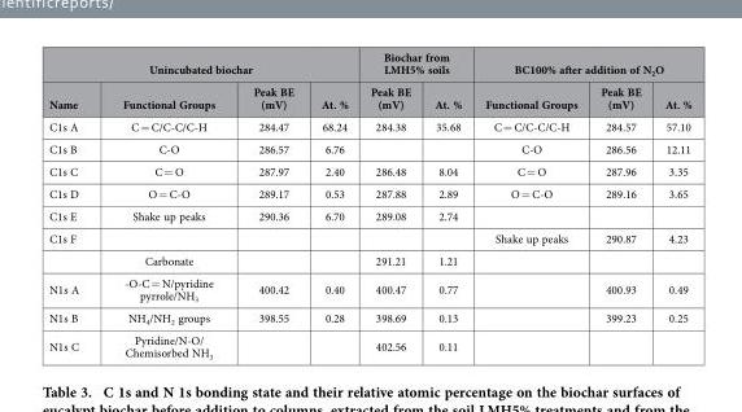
<table><thead><tr><td colspan="4">Unincubated biochar</td><td colspan="2">Biochar from LMH5% soils</td><td colspan="3">BC100% after addition of N<sub>2</sub>O</td></tr><tr><td>Name</td><td>Functional Groups</td><td>Peak BE (mV)</td><td>At. %</td><td>Peak BE (mV)</td><td>At. %</td><td>Functional Groups</td><td>Peak BE (mV)</td><td>At. %</td></tr></thead><tbody><tr><td>C1s A</td><td>C = C/C-C/C-H</td><td>284.47</td><td>68.24</td><td>284.38</td><td>35.68</td><td>C = C/C-C/C-H</td><td>284.57</td><td>57.10</td></tr><tr><td>C1s B</td><td>C-O</td><td>286.57</td><td>6.76</td><td></td><td></td><td>C-O</td><td>286.56</td><td>12.11</td></tr><tr><td>C1s C</td><td>C = O</td><td>287.97</td><td>2.40</td><td>286.48</td><td>8.04</td><td>C = O</td><td>287.96</td><td>3.35</td></tr><tr><td>C1s D</td><td>O = C-O</td><td>289.17</td><td>0.53</td><td>287.88</td><td>2.89</td><td>O = C-O</td><td>289.16</td><td>3.65</td></tr><tr><td>C1s E</td><td>Shake up peaks</td><td>290.36</td><td>6.70</td><td>289.08</td><td>2.74</td><td></td><td></td><td></td></tr><tr><td rowspan="2">C1s F</td><td></td><td></td><td></td><td></td><td></td><td>Shake up peaks</td><td>290.87</td><td>4.23</td></tr><tr><td>Carbonate</td><td></td><td></td><td>291.21</td><td>1.21</td><td></td><td></td><td></td></tr><tr><td>N1s A</td><td>-O-C = N/pyridine pyrrole/NH<sub>3</sub></td><td>400.42</td><td>0.40</td><td>400.47</td><td>0.77</td><td></td><td>400.93</td><td>0.49</td></tr><tr><td>N1s B</td><td>NH<sub>4</sub>/NH<sub>2</sub> groups</td><td>398.55</td><td>0.28</td><td>398.69</td><td>0.13</td><td></td><td>399.23</td><td>0.25</td></tr><tr><td>N1s C</td><td>Pyridine/N-O/ Chemisorbed NH<sub>3</sub></td><td></td><td></td><td>402.56</td><td>0.11</td><td></td><td></td><td></td></tr></tbody></table>